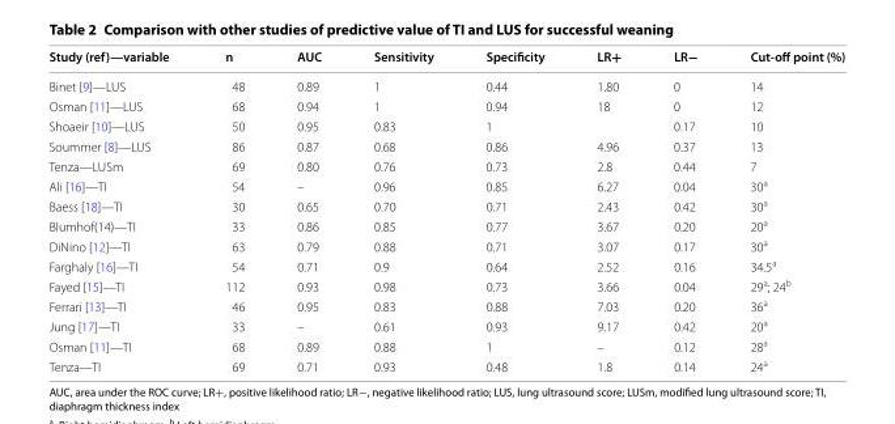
<table><thead><tr><td>Study (ref)—variable</td><td>n</td><td>AUC</td><td>Sensitivity</td><td>Specificity</td><td>LR+</td><td>LR−</td><td>Cut-off point (%)</td></tr></thead><tbody><tr><td>Binet [9]—LUS</td><td>48</td><td>0.89</td><td>1</td><td>0.44</td><td>1.80</td><td>0</td><td>14</td></tr><tr><td>Osman [11]—LUS</td><td>68</td><td>0.94</td><td>1</td><td>0.94</td><td>18</td><td>0</td><td>12</td></tr><tr><td>Shoaeir [10]—LUS</td><td>50</td><td>0.95</td><td>0.83</td><td>1</td><td></td><td>0.17</td><td>10</td></tr><tr><td>Soummer [8]—LUS</td><td>86</td><td>0.87</td><td>0.68</td><td>0.86</td><td>4.96</td><td>0.37</td><td>13</td></tr><tr><td>Tenza—LUSm</td><td>69</td><td>0.80</td><td>0.76</td><td>0.73</td><td>2.8</td><td>0.44</td><td>7</td></tr><tr><td>Ali [16]—TI</td><td>54</td><td>–</td><td>0.96</td><td>0.85</td><td>6.27</td><td>0.04</td><td>30<sup>a</sup></td></tr><tr><td>Baess [18]—TI</td><td>30</td><td>0.65</td><td>0.70</td><td>0.71</td><td>2.43</td><td>0.42</td><td>30<sup>a</sup></td></tr><tr><td>Blumhof(14)—TI</td><td>33</td><td>0.86</td><td>0.85</td><td>0.77</td><td>3.67</td><td>0.20</td><td>20<sup>a</sup></td></tr><tr><td>DiNino [12]—TI</td><td>63</td><td>0.79</td><td>0.88</td><td>0.71</td><td>3.07</td><td>0.17</td><td>30<sup>a</sup></td></tr><tr><td>Farghaly [16]—TI</td><td>54</td><td>0.71</td><td>0.9</td><td>0.64</td><td>2.52</td><td>0.16</td><td>34.5<sup>a</sup></td></tr><tr><td>Fayed [15]—TI</td><td>112</td><td>0.93</td><td>0.98</td><td>0.73</td><td>3.66</td><td>0.04</td><td>29<sup>a</sup>; 24<sup>b</sup></td></tr><tr><td>Ferrari [13]—TI</td><td>46</td><td>0.95</td><td>0.83</td><td>0.88</td><td>7.03</td><td>0.20</td><td>36<sup>a</sup></td></tr><tr><td>Jung [17]—TI</td><td>33</td><td>–</td><td>0.61</td><td>0.93</td><td>9.17</td><td>0.42</td><td>20<sup>a</sup></td></tr><tr><td>Osman [11]—TI</td><td>68</td><td>0.89</td><td>0.88</td><td>1</td><td>–</td><td>0.12</td><td>28<sup>a</sup></td></tr><tr><td>Tenza—TI</td><td>69</td><td>0.71</td><td>0.93</td><td>0.48</td><td>1.8</td><td>0.14</td><td>24<sup>a</sup></td></tr></tbody></table>